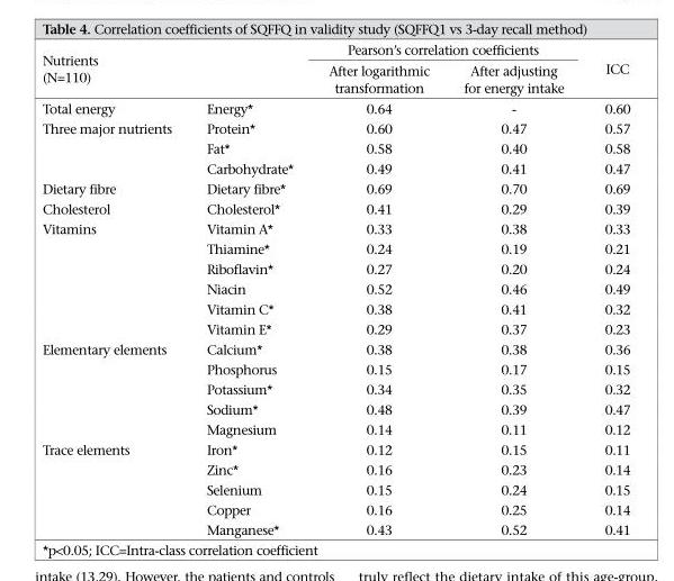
<table><thead><tr><td rowspan="2" colspan="2">Nutrients (N=110)</td><td colspan="2">Pearson’s correlation coefficients</td><td rowspan="3">ICC 0.60</td></tr><tr><td rowspan="2">After logarithmic transformation 0.64</td><td rowspan="2">After adjusting for energy intake -</td></tr><tr><td>Total energy</td><td>Energy*</td></tr></thead><tbody><tr><td rowspan="3">Three major nutrients</td><td>Protein*</td><td>0.60</td><td>0.47</td><td>0.57</td></tr><tr><td>Fat*</td><td>0.58</td><td>0.40</td><td>0.58</td></tr><tr><td>Carbohydrate*</td><td>0.49</td><td>0.41</td><td>0.47</td></tr><tr><td>Dietary fibre</td><td>Dietary fibre*</td><td>0.69</td><td>0.70</td><td>0.69</td></tr><tr><td>Cholesterol</td><td>Cholesterol*</td><td>0.41</td><td>0.29</td><td>0.39</td></tr><tr><td rowspan="6">Vitamins</td><td>Vitamin A*</td><td>0.33</td><td>0.38</td><td>0.33</td></tr><tr><td>Thiamine*</td><td>0.24</td><td>0.19</td><td>0.21</td></tr><tr><td>Riboflavin*</td><td>0.27</td><td>0.20</td><td>0.24</td></tr><tr><td>Niacin</td><td>0.52</td><td>0.46</td><td>0.49</td></tr><tr><td>Vitamin C*</td><td>0.38</td><td>0.41</td><td>0.32</td></tr><tr><td>Vitamin E*</td><td>0.29</td><td>0.37</td><td>0.23</td></tr><tr><td rowspan="5">Elementary elements</td><td>Calcium*</td><td>0.38</td><td>0.38</td><td>0.36</td></tr><tr><td>Phosphorus</td><td>0.15</td><td>0.17</td><td>0.15</td></tr><tr><td>Potassium*</td><td>0.34</td><td>0.35</td><td>0.32</td></tr><tr><td>Sodium*</td><td>0.48</td><td>0.39</td><td>0.47</td></tr><tr><td>Magnesium</td><td>0.14</td><td>0.11</td><td>0.12</td></tr><tr><td rowspan="5">Trace elements</td><td>Iron*</td><td>0.12</td><td>0.15</td><td>0.11</td></tr><tr><td>Zinc*</td><td>0.16</td><td>0.23</td><td>0.14</td></tr><tr><td>Selenium</td><td>0.15</td><td>0.24</td><td>0.15</td></tr><tr><td>Copper</td><td>0.16</td><td>0.25</td><td>0.14</td></tr><tr><td>Manganese*</td><td>0.43</td><td>0.52</td><td>0.41</td></tr></tbody></table>